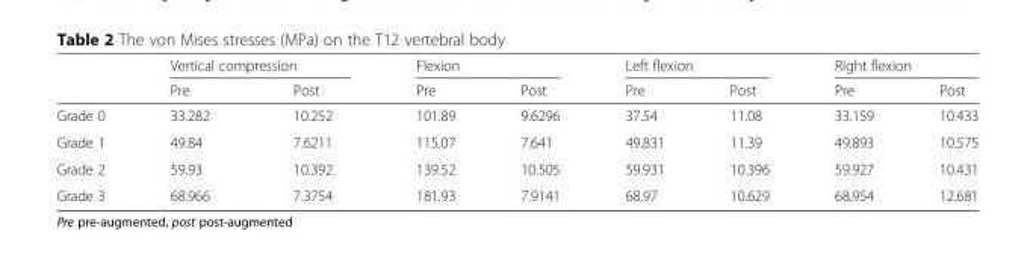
<table><thead><tr><td rowspan="2"></td><td colspan="2">Vertical compression</td><td colspan="2">Flexion</td><td colspan="2">Left flexion</td><td colspan="2">Right flexion</td></tr><tr><td>Pre</td><td>Post</td><td>Pre</td><td>Post</td><td>Pre</td><td>Post</td><td>Pre</td><td>Post</td></tr></thead><tbody><tr><td>Grade 0</td><td>33.282</td><td>10.252</td><td>101.89</td><td>9.6296</td><td>37.54</td><td>11.08</td><td>33.159</td><td>10.433</td></tr><tr><td>Grade 1</td><td>49.84</td><td>7.6211</td><td>115.07</td><td>7.641</td><td>49.831</td><td>11.39</td><td>49.893</td><td>10.575</td></tr><tr><td>Grade 2</td><td>59.93</td><td>10.392</td><td>139.52</td><td>10.505</td><td>59.931</td><td>10.396</td><td>59.927</td><td>10.431</td></tr><tr><td>Grade 3</td><td>68.966</td><td>7.3754</td><td>181.93</td><td>7.9141</td><td>68.97</td><td>10.629</td><td>68.954</td><td>12.681</td></tr></tbody></table>